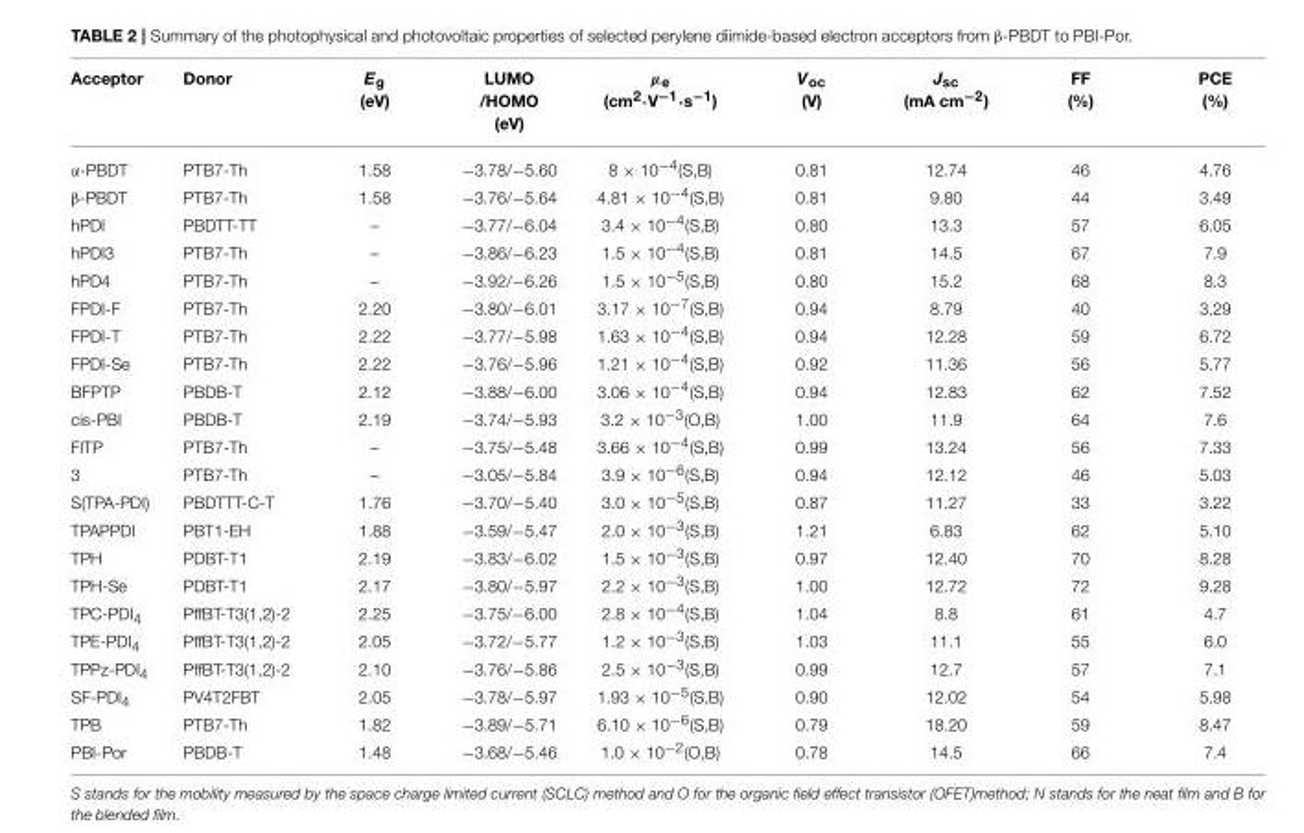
<table><thead><tr><td>Acceptor</td><td>Donor</td><td>E<sub>g</sub> (eV)</td><td>LUMO /HOMO (eV)</td><td>µ<sub>e</sub> (cm<sup>2</sup>·V<sup>−1</sup>·s<sup>−1</sup>)</td><td>V<sub>oc</sub> (V)</td><td>J<sub>sc</sub> (mA cm<sup>−2</sup>)</td><td>FF (%)</td><td>PCE (%)</td></tr></thead><tbody><tr><td>α-PBDT</td><td>PTB7-Th</td><td>1.58</td><td>−3.78/−5.60</td><td>8 × 10<sup>−4</sup>(S,B)</td><td>0.81</td><td>12.74</td><td>46</td><td>4.76</td></tr><tr><td>β-PBDT</td><td>PTB7-Th</td><td>1.58</td><td>−3.76/−5.64</td><td>4.81 × 10<sup>−4</sup>(S,B)</td><td>0.81</td><td>9.80</td><td>44</td><td>3.49</td></tr><tr><td>hPDI</td><td>PBDTT-TT</td><td>–</td><td>−3.77/−6.04</td><td>3.4 × 10<sup>−4</sup>(S,B)</td><td>0.80</td><td>13.3</td><td>57</td><td>6.05</td></tr><tr><td>hPDI3</td><td>PTB7-Th</td><td>–</td><td>−3.86/−6.23</td><td>1.5 × 10<sup>−4</sup>(S,B)</td><td>0.81</td><td>14.5</td><td>67</td><td>7.9</td></tr><tr><td>hPD4</td><td>PTB7-Th</td><td>–</td><td>−3.92/−6.26</td><td>1.5 × 10<sup>−5</sup>(S,B)</td><td>0.80</td><td>15.2</td><td>68</td><td>8.3</td></tr><tr><td>FPDI-F</td><td>PTB7-Th</td><td>2.20</td><td>−3.80/−6.01</td><td>3.17 × 10<sup>−7</sup>(S,B)</td><td>0.94</td><td>8.79</td><td>40</td><td>3.29</td></tr><tr><td>FPDI-T</td><td>PTB7-Th</td><td>2.22</td><td>−3.77/−5.98</td><td>1.63 × 10<sup>−4</sup>(S,B)</td><td>0.94</td><td>12.28</td><td>59</td><td>6.72</td></tr><tr><td>FPDI-Se</td><td>PTB7-Th</td><td>2.22</td><td>−3.76/−5.96</td><td>1.21 × 10<sup>−4</sup>(S,B)</td><td>0.92</td><td>11.36</td><td>56</td><td>5.77</td></tr><tr><td>BFPTP</td><td>PBDB-T</td><td>2.12</td><td>−3.88/−6.00</td><td>3.06 × 10<sup>−4</sup>(S,B)</td><td>0.94</td><td>12.83</td><td>62</td><td>7.52</td></tr><tr><td>cis-PBI</td><td>PBDB-T</td><td>2.19</td><td>−3.74/−5.93</td><td>3.2 × 10<sup>−3</sup>(O,B)</td><td>1.00</td><td>11.9</td><td>64</td><td>7.6</td></tr><tr><td>FITP</td><td>PTB7-Th</td><td>–</td><td>−3.75/−5.48</td><td>3.66 × 10<sup>−4</sup>(S,B)</td><td>0.99</td><td>13.24</td><td>56</td><td>7.33</td></tr><tr><td>3</td><td>PTB7-Th</td><td>–</td><td>−3.05/−5.84</td><td>3.9 × 10<sup>−6</sup>(S,B)</td><td>0.94</td><td>12.12</td><td>46</td><td>5.03</td></tr><tr><td>S(TPA-PDI)</td><td>PBDTTT-C-T</td><td>1.76</td><td>−3.70/−5.40</td><td>3.0 × 10<sup>−5</sup>(S,B)</td><td>0.87</td><td>11.27</td><td>33</td><td>3.22</td></tr><tr><td>TPAPPDI</td><td>PBT1-EH</td><td>1.88</td><td>−3.59/−5.47</td><td>2.0 × 10<sup>−3</sup>(S,B)</td><td>1.21</td><td>6.83</td><td>62</td><td>5.10</td></tr><tr><td>TPH</td><td>PDBT-T1</td><td>2.19</td><td>−3.83/−6.02</td><td>1.5 × 10<sup>−3</sup>(S,B)</td><td>0.97</td><td>12.40</td><td>70</td><td>8.28</td></tr><tr><td>TPH-Se</td><td>PDBT-T1</td><td>2.17</td><td>−3.80/−5.97</td><td>2.2 × 10<sup>−3</sup>(S,B)</td><td>1.00</td><td>12.72</td><td>72</td><td>9.28</td></tr><tr><td>TPC-PDI<sub>4</sub></td><td>PffBT-T3(1,2)-2</td><td>2.25</td><td>−3.75/−6.00</td><td>2.8 × 10<sup>−4</sup>(S,B)</td><td>1.04</td><td>8.8</td><td>61</td><td>4.7</td></tr><tr><td>TPE-PDI<sub>4</sub></td><td>PffBT-T3(1,2)-2</td><td>2.05</td><td>−3.72/−5.77</td><td>1.2 × 10<sup>−3</sup>(S,B)</td><td>1.03</td><td>11.1</td><td>55</td><td>6.0</td></tr><tr><td>TPPz-PDI<sub>4</sub></td><td>PffBT-T3(1,2)-2</td><td>2.10</td><td>−3.76/−5.86</td><td>2.5 × 10<sup>−3</sup>(S,B)</td><td>0.99</td><td>12.7</td><td>57</td><td>7.1</td></tr><tr><td>SF-PDI<sub>4</sub></td><td>PV4T2FBT</td><td>2.05</td><td>−3.78/−5.97</td><td>1.93 × 10<sup>−5</sup>(S,B)</td><td>0.90</td><td>12.02</td><td>54</td><td>5.98</td></tr><tr><td>TPB</td><td>PTB7-Th</td><td>1.82</td><td>−3.89/−5.71</td><td>6.10 × 10<sup>−6</sup>(S,B)</td><td>0.79</td><td>18.20</td><td>59</td><td>8.47</td></tr><tr><td>PBI-Por</td><td>PBDB-T</td><td>1.48</td><td>−3.68/−5.46</td><td>1.0 × 10<sup>−2</sup>(O,B)</td><td>0.78</td><td>14.5</td><td>66</td><td>7.4</td></tr></tbody></table>